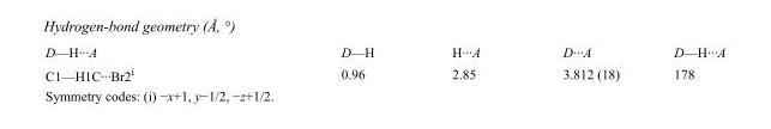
<table><tbody><tr><td>D—H···A</td><td>D—H</td><td>H···A</td><td>D···A</td><td>D—H···A</td></tr><tr><td>C1—H1C···Br2<sup>i</sup></td><td>0.96</td><td>2.85</td><td>3.812 (18)</td><td>178</td></tr></tbody></table>